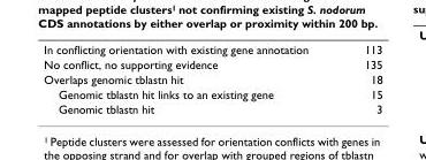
<table><tbody><tr><td>In conflicting orientation with existing gene annotation</td><td>113</td></tr><tr><td>No conflict, no supporting evidence</td><td>135</td></tr><tr><td>Overlaps genomic tblastn hit</td><td>18</td></tr><tr><td>Genomic tblastn hit links to an existing gene</td><td>15</td></tr><tr><td>Genomic tblastn hit</td><td>3</td></tr></tbody></table>